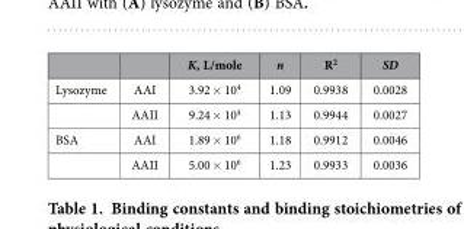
<table><thead><tr><td></td><td></td><td>K, L/mole</td><td>n</td><td>R<sup>2</sup></td><td>SD</td></tr></thead><tbody><tr><td rowspan="2">Lysozyme</td><td>AAI</td><td>3.92 × 10<sup>4</sup></td><td>1.09</td><td>0.9938</td><td>0.0028</td></tr><tr><td>AAII</td><td>9.24 × 10<sup>4</sup></td><td>1.13</td><td>0.9944</td><td>0.0027</td></tr><tr><td rowspan="2">BSA</td><td>AAI</td><td>1.89 × 10<sup>6</sup></td><td>1.18</td><td>0.9912</td><td>0.0046</td></tr><tr><td>AAII</td><td>5.00 × 10<sup>6</sup></td><td>1.23</td><td>0.9933</td><td>0.0036</td></tr></tbody></table>